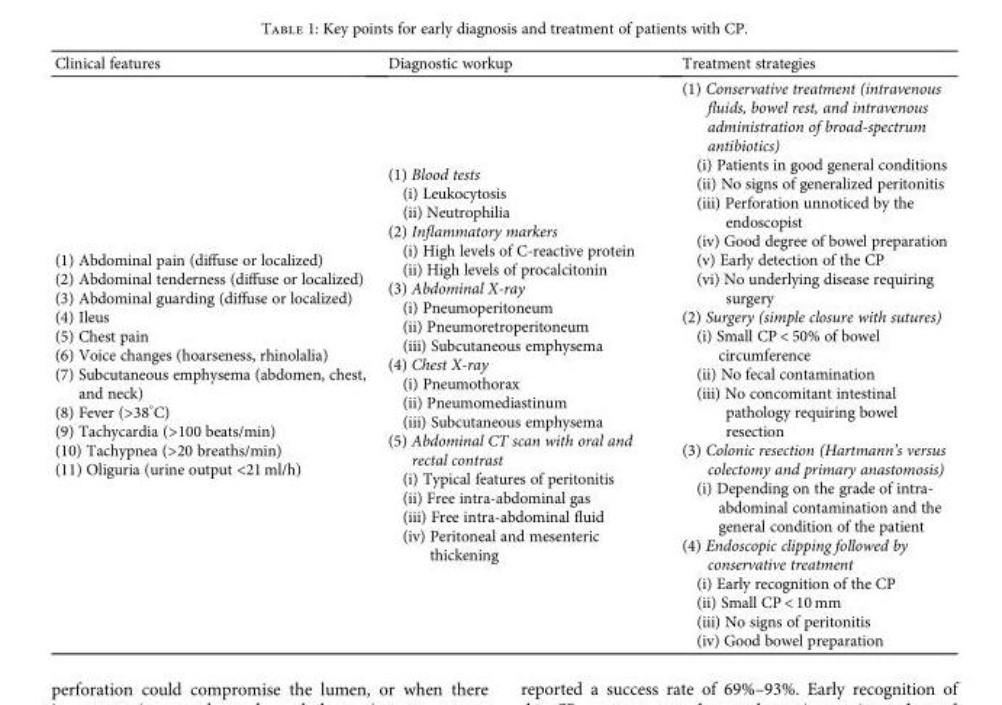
<table><thead><tr><td>Clinical features</td><td>Diagnostic workup</td><td>Treatment strategies</td></tr></thead><tbody><tr><td>(1) Abdominal pain (diffuse or localized) (2) Abdominal tenderness (diffuse or localized) (3) Abdominal guarding (diffuse or localized) (4) Ileus (5) Chest pain (6) Voice changes (hoarseness, rhinolalia) (7) Subcutaneous emphysema (abdomen, chest, and neck) (8) Fever (&gt;38°C) (9) Tachycardia (&gt;100 beats/min) (10) Tachypnea (&gt;20 breaths/min) (11) Oliguria (urine output &lt;21 ml/h)</td><td>(1) Blood tests (i) Leukocytosis (ii) Neutrophilia (2) Inflammatory markers (i) High levels of C-reactive protein (ii) High levels of procalcitonin (3) Abdominal X-ray (i) Pneumoperitoneum (ii) Pneumoretroperitoneum (iii) Subcutaneous emphysema (4) Chest X-ray (i) Pneumothorax (ii) Pneumomediastinum (iii) Subcutaneous emphysema (5) Abdominal CT scan with oral and rectal contrast (i) Typical features of peritonitis (ii) Free intra-abdominal gas (iii) Free intra-abdominal fluid (iv) Peritoneal and mesenteric thickening</td><td>(1) Conservative treatment (intravenous fluids, bowel rest, and intravenous administration of broad-spectrum antibiotics) (i) Patients in good general conditions (ii) No signs of generalized peritonitis (iii) Perforation unnoticed by the endoscopist (iv) Good degree of bowel preparation (v) Early detection of the CP (vi) No underlying disease requiring surgery (2) Surgery (simple closure with sutures) (i) Small CP &lt; 50% of bowel circumference (ii) No fecal contamination (iii) No concomitant intestinal pathology requiring bowel resection (3) Colonic resection (Hartmann’s versus colectomy and primary anastomosis) (i) Depending on the grade of intra- abdominal contamination and the general condition of the patient (4) Endoscopic clipping followed by conservative treatment (i) Early recognition of the CP (ii) Small CP &lt; 10 mm (iii) No signs of peritonitis (iv) Good bowel preparation</td></tr></tbody></table>